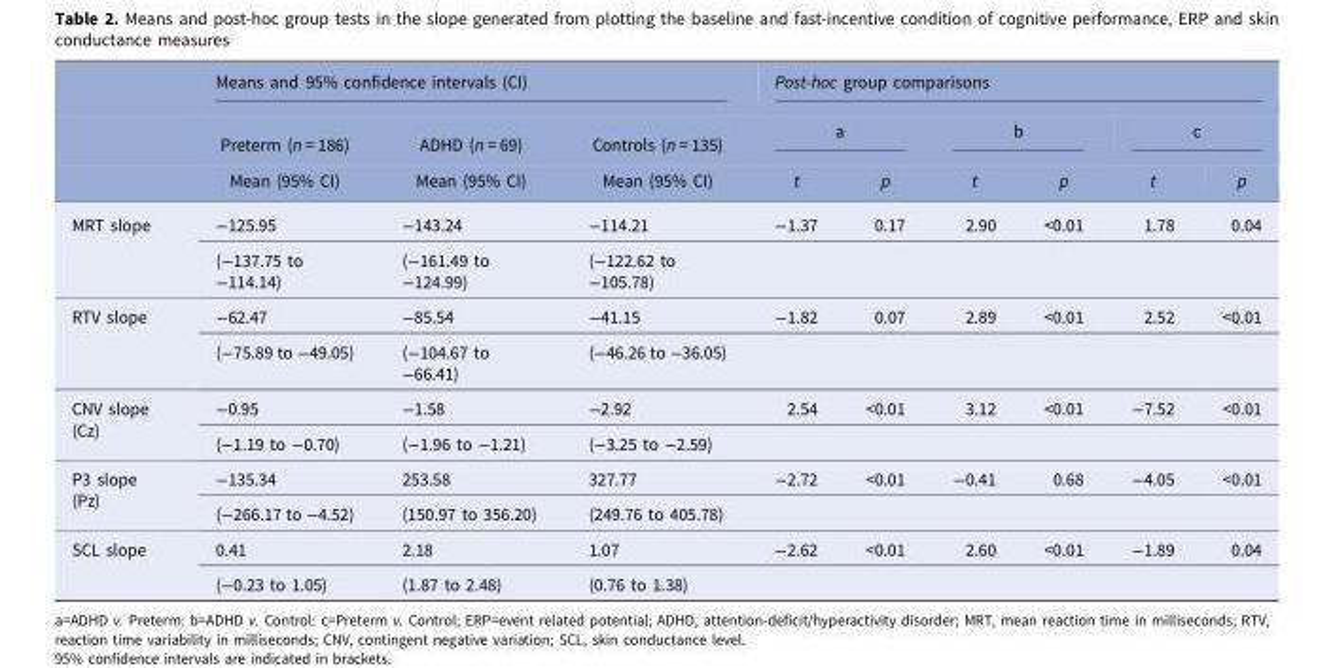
<table><thead><tr><td rowspan="3"></td><td colspan="3">Means and 95% confidence intervals (CI)</td><td colspan="6">Post-hoc group comparisons</td></tr><tr><td rowspan="2">Preterm (n = 186) Mean (95% CI)</td><td rowspan="2">ADHD (n = 69) Mean (95% CI)</td><td rowspan="2">Controls (n = 135) Mean (95% CI)</td><td colspan="2">a</td><td colspan="2">b</td><td colspan="2">c</td></tr><tr><td>t</td><td>p</td><td>t</td><td>p</td><td>t</td><td>p</td></tr></thead><tbody><tr><td rowspan="2">MRT slope</td><td>−125.95</td><td>−143.24</td><td>−114.21</td><td>−1.37</td><td>0.17</td><td>2.90</td><td>&lt;0.01</td><td>1.78</td><td>0.04</td></tr><tr><td>(−137.75 to −114.14)</td><td>(−161.49 to −124.99)</td><td>(−122.62 to −105.78)</td><td></td><td></td><td></td><td></td><td></td><td></td></tr><tr><td rowspan="2">RTV slope</td><td>−62.47</td><td>−85.54</td><td>−41.15</td><td>−1.82</td><td>0.07</td><td>2.89</td><td>&lt;0.01</td><td>2.52</td><td>&lt;0.01</td></tr><tr><td>(−75.89 to −49.05)</td><td>(−104.67 to −66.41)</td><td>(−46.26 to −36.05)</td><td></td><td></td><td></td><td></td><td></td><td></td></tr><tr><td rowspan="2">CNV slope (Cz)</td><td>−0.95</td><td>−1.58</td><td>−2.92</td><td>2.54</td><td>&lt;0.01</td><td>3.12</td><td>&lt;0.01</td><td>−7.52</td><td>&lt;0.01</td></tr><tr><td>(−1.19 to −0.70)</td><td>(−1.96 to −1.21)</td><td>(−3.25 to −2.59)</td><td></td><td></td><td></td><td></td><td></td><td></td></tr><tr><td rowspan="2">P3 slope (Pz)</td><td>−135.34</td><td>253.58</td><td>327.77</td><td>−2.72</td><td>&lt;0.01</td><td>−0.41</td><td>0.68</td><td>−4.05</td><td>&lt;0.01</td></tr><tr><td>(−266.17 to −4.52)</td><td>(150.97 to 356.20)</td><td>(249.76 to 405.78)</td><td></td><td></td><td></td><td></td><td></td><td></td></tr><tr><td rowspan="2">SCL slope</td><td>0.41</td><td>2.18</td><td>1.07</td><td>−2.62</td><td>&lt;0.01</td><td>2.60</td><td>&lt;0.01</td><td>−1.89</td><td>0.04</td></tr><tr><td>(−0.23 to 1.05)</td><td>(1.87 to 2.48)</td><td>(0.76 to 1.38)</td><td></td><td></td><td></td><td></td><td></td><td></td></tr></tbody></table>